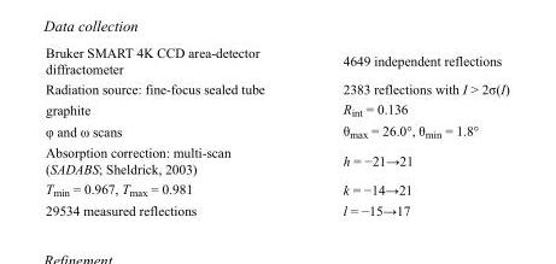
<table><tbody><tr><td>Bruker SMART 4K CCD area-detector diffractometer</td><td>4649 independent reflections</td></tr><tr><td>Radiation source: fine-focus sealed tube</td><td>2383 reflections with I &gt; 2σ(I)</td></tr><tr><td>graphite</td><td>R<sub>int</sub> = 0.136</td></tr><tr><td>φ and ω scans</td><td>θ<sub>max</sub> = 26.0°, θ<sub>min</sub> = 1.8°</td></tr><tr><td>Absorption correction: multi-scan (SADABS; Sheldrick, 2003)</td><td>h = −21→21</td></tr><tr><td>T<sub>min</sub> = 0.967, T<sub>max</sub> = 0.981</td><td>k = −14→21</td></tr><tr><td>29534 measured reflections</td><td>l = −15→17</td></tr></tbody></table>